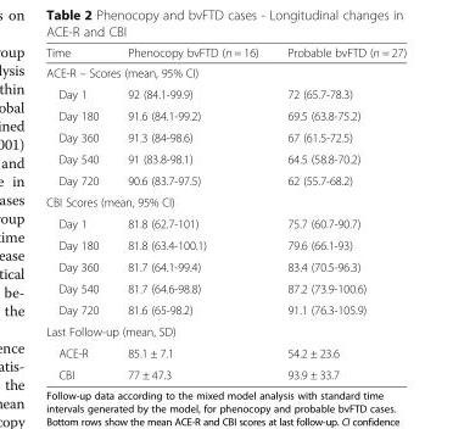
<table><thead><tr><td>Time</td><td>Phenocopy bvFTD (n = 16)</td><td>Probable bvFTD (n = 27)</td></tr></thead><tbody><tr><td colspan="3">ACE-R – Scores (mean, 95% CI)</td></tr><tr><td>Day 1</td><td>92 (84.1-99.9)</td><td>72 (65.7-78.3)</td></tr><tr><td>Day 180</td><td>91.6 (84.1-99.2)</td><td>69.5 (63.8-75.2)</td></tr><tr><td>Day 360</td><td>91.3 (84-98.6)</td><td>67 (61.5-72.5)</td></tr><tr><td>Day 540</td><td>91 (83.8-98.1)</td><td>64.5 (58.8-70.2)</td></tr><tr><td>Day 720</td><td>90.6 (83.7-97.5)</td><td>62 (55.7-68.2)</td></tr><tr><td colspan="3">CBI Scores (mean, 95% CI)</td></tr><tr><td>Day 1</td><td>81.8 (62.7-101)</td><td>75.7 (60.7-90.7)</td></tr><tr><td>Day 180</td><td>81.8 (63.4-100.1)</td><td>79.6 (66.1-93)</td></tr><tr><td>Day 360</td><td>81.7 (64.1-99.4)</td><td>83.4 (70.5-96.3)</td></tr><tr><td>Day 540</td><td>81.7 (64.6-98.8)</td><td>87.2 (73.9-100.6)</td></tr><tr><td>Day 720</td><td>81.6 (65-98.2)</td><td>91.1 (76.3-105.9)</td></tr><tr><td colspan="3">Last Follow-up (mean, SD)</td></tr><tr><td>ACE-R</td><td>85.1 ± 7.1</td><td>54.2 ± 23.6</td></tr><tr><td>CBI</td><td>77 ± 47.3</td><td>93.9 ± 33.7</td></tr></tbody></table>